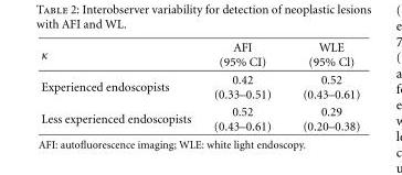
<table><thead><tr><td>κ</td><td>AFI (95% CI)</td><td>WLE (95% Cl)</td></tr></thead><tbody><tr><td>Experienced endoscopists</td><td>0.42 (0.33–0.51)</td><td>0.52 (0.43–0.61)</td></tr><tr><td>Less experienced endoscopists</td><td>0.52 (0.43–0.61)</td><td>0.29 (0.20–0.38)</td></tr></tbody></table>